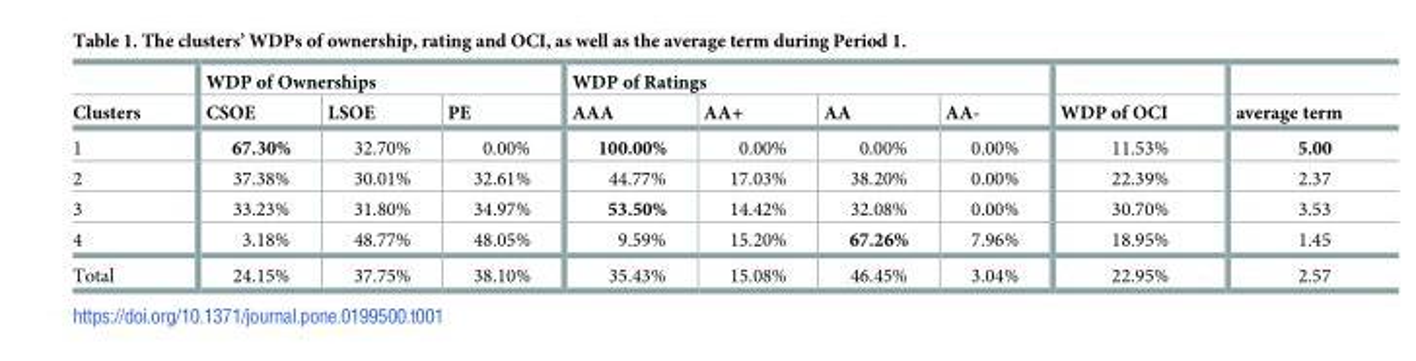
<table><thead><tr><td rowspan="2">Clusters</td><td colspan="3">WDP of Ownerships</td><td colspan="4">WDP of Ratings</td><td rowspan="2">WDP of OCI</td><td rowspan="2">average term</td></tr><tr><td>CSOE</td><td>LSOE</td><td>PE</td><td>AAA</td><td>AA+</td><td>AA</td><td>AA-</td></tr></thead><tbody><tr><td>1</td><td>67.30%</td><td>32.70%</td><td>0.00%</td><td>100.00%</td><td>0.00%</td><td>0.00%</td><td>0.00%</td><td>11.53%</td><td>5.00</td></tr><tr><td>2</td><td>37.38%</td><td>30.01%</td><td>32.61%</td><td>44.77%</td><td>17.03%</td><td>38.20%</td><td>0.00%</td><td>22.39%</td><td>2.37</td></tr><tr><td>3</td><td>33.23%</td><td>31.80%</td><td>34.97%</td><td>53.50%</td><td>14.42%</td><td>32.08%</td><td>0.00%</td><td>30.70%</td><td>3.53</td></tr><tr><td>4</td><td>3.18%</td><td>48.77%</td><td>48.05%</td><td>9.59%</td><td>15.20%</td><td>67.26%</td><td>7.96%</td><td>18.95%</td><td>1.45</td></tr><tr><td>Total</td><td>24.15%</td><td>37.75%</td><td>38.10%</td><td>35.43%</td><td>15.08%</td><td>46.45%</td><td>3.04%</td><td>22.95%</td><td>2.57</td></tr></tbody></table>